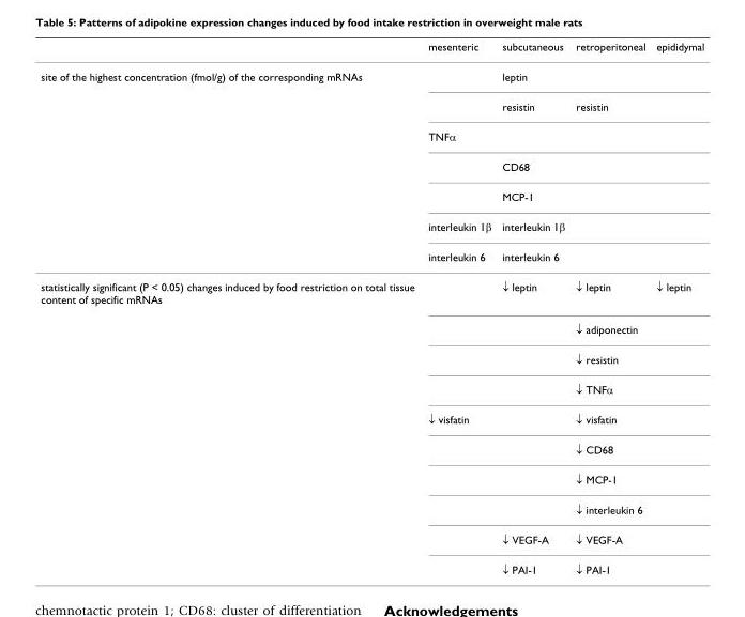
<table><thead><tr><td></td><td>mesenteric</td><td>subcutaneous</td><td>retroperitoneal</td><td>epididymal</td></tr></thead><tbody><tr><td rowspan="7">site of the highest concentration (fmol/g) of the corresponding mRNAs</td><td></td><td>leptin</td><td></td><td></td></tr><tr><td></td><td>resistin</td><td>resistin</td><td></td></tr><tr><td>TNFα</td><td></td><td></td><td></td></tr><tr><td></td><td>CD68</td><td></td><td></td></tr><tr><td></td><td>MCP-1</td><td></td><td></td></tr><tr><td>interleukin 1β</td><td>interleukin 1β</td><td></td><td></td></tr><tr><td>interleukin 6</td><td>interleukin 6</td><td></td><td></td></tr><tr><td rowspan="10">statistically significant (P &lt; 0.05) changes induced by food restriction on total tissue content of specific mRNAs</td><td></td><td>↓ leptin</td><td>↓ leptin</td><td>↓ leptin</td></tr><tr><td></td><td></td><td>↓ adiponectin</td><td></td></tr><tr><td></td><td></td><td>↓ resistin</td><td></td></tr><tr><td></td><td></td><td>↓ TNFα</td><td></td></tr><tr><td>↓ visfatin</td><td></td><td>↓ visfatin</td><td></td></tr><tr><td></td><td></td><td>↓ CD68</td><td></td></tr><tr><td></td><td></td><td>↓ MCP-1</td><td></td></tr><tr><td></td><td></td><td>↓ interleukin 6</td><td></td></tr><tr><td></td><td>↓ VEGF-A</td><td>↓ VEGF-A</td><td></td></tr><tr><td></td><td>↓ PAI-1</td><td>↓ PAI-1</td><td></td></tr></tbody></table>